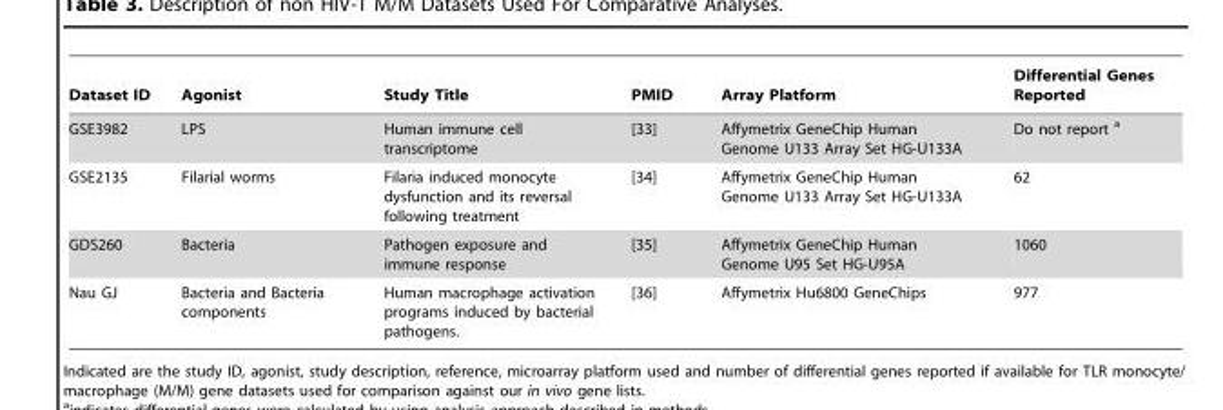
<table><thead><tr><td>Dataset ID</td><td>Agonist</td><td>Study Title</td><td>PMID</td><td>Array Platform</td><td>Differential Genes Reported</td></tr></thead><tbody><tr><td>GSE3982</td><td>LPS</td><td>Human immune cell transcriptome</td><td>[33]</td><td>Affymetrix GeneChip Human Genome U133 Array Set HG-U133A</td><td>Do not report a</td></tr><tr><td>GSE2135</td><td>Filarial worms</td><td>Filaria induced monocyte dysfunction and its reversal following treatment</td><td>[34]</td><td>Affymetrix GeneChip Human Genome U133 Array Set HG-U133A</td><td>62</td></tr><tr><td>GDS260</td><td>Bacteria</td><td>Pathogen exposure and immune response</td><td>[35]</td><td>Affymetrix GeneChip Human Genome U95 Set HG-U95A</td><td>1060</td></tr><tr><td>Nau GJ</td><td>Bacteria and Bacteria components</td><td>Human macrophage activation programs induced by bacterial pathogens.</td><td>[36]</td><td>Affymetrix Hu6800 GeneChips</td><td>977</td></tr></tbody></table>